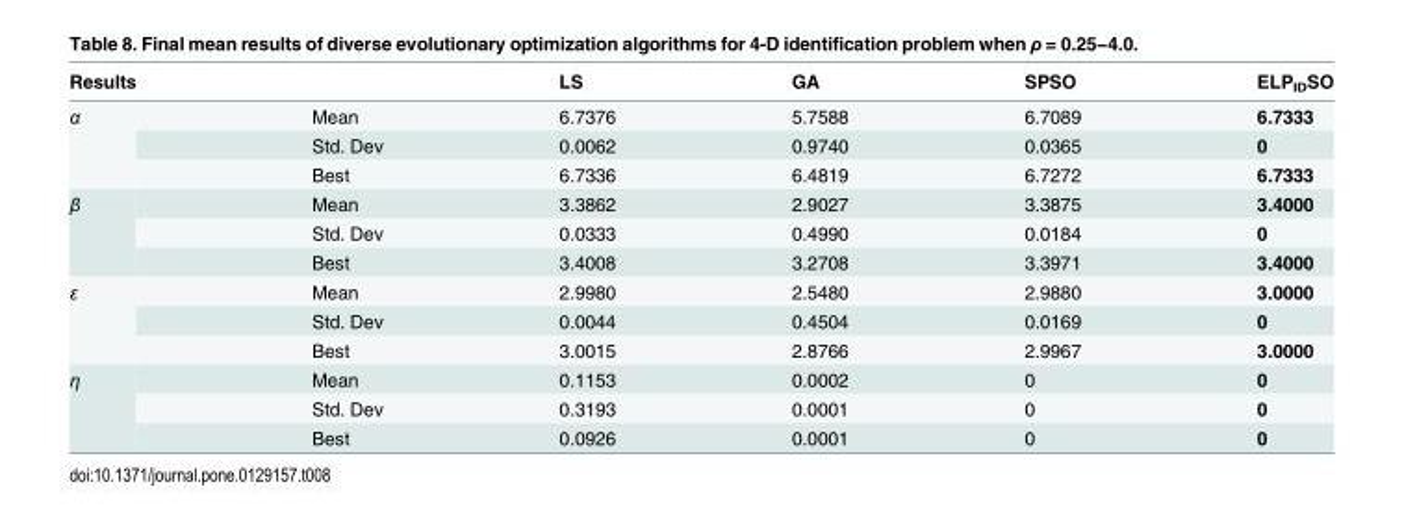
<table><thead><tr><td>Results</td><td></td><td>LS</td><td>GA</td><td>SPSO</td><td>ELP<sub>ID</sub>SO</td></tr></thead><tbody><tr><td rowspan="3">α</td><td>Mean</td><td>6.7376</td><td>5.7588</td><td>6.7089</td><td>6.7333</td></tr><tr><td>Std. Dev</td><td>0.0062</td><td>0.9740</td><td>0.0365</td><td>0</td></tr><tr><td>Best</td><td>6.7336</td><td>6.4819</td><td>6.7272</td><td>6.7333</td></tr><tr><td rowspan="3">β</td><td>Mean</td><td>3.3862</td><td>2.9027</td><td>3.3875</td><td>3.4000</td></tr><tr><td>Std. Dev</td><td>0.0333</td><td>0.4990</td><td>0.0184</td><td>0</td></tr><tr><td>Best</td><td>3.4008</td><td>3.2708</td><td>3.3971</td><td>3.4000</td></tr><tr><td rowspan="3">ε</td><td>Mean</td><td>2.9980</td><td>2.5480</td><td>2.9880</td><td>3.0000</td></tr><tr><td>Std. Dev</td><td>0.0044</td><td>0.4504</td><td>0.0169</td><td>0</td></tr><tr><td>Best</td><td>3.0015</td><td>2.8766</td><td>2.9967</td><td>3.0000</td></tr><tr><td rowspan="3">η</td><td>Mean</td><td>0.1153</td><td>0.0002</td><td>0</td><td>0</td></tr><tr><td>Std. Dev</td><td>0.3193</td><td>0.0001</td><td>0</td><td>0</td></tr><tr><td>Best</td><td>0.0926</td><td>0.0001</td><td>0</td><td>0</td></tr></tbody></table>